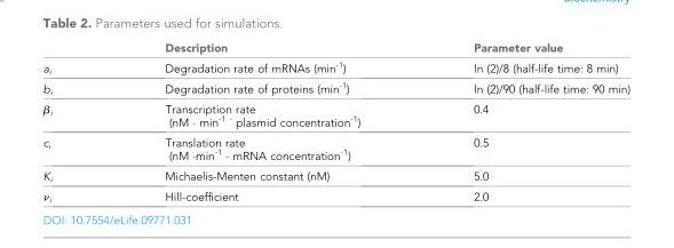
<table><thead><tr><td></td><td>Description</td><td>Parameter value</td></tr></thead><tbody><tr><td>a<sub>i</sub></td><td>Degradation rate of mRNAs (min<sup>-1</sup>)</td><td>ln (2)/8 (half-life time: 8 min)</td></tr><tr><td>b<sub>i</sub></td><td>Degradation rate of proteins (min<sup>-1</sup>)</td><td>ln (2)/90 (half-life time: 90 min)</td></tr><tr><td>β<sub>i</sub></td><td>Transcription rate (nM � min-1 � plasmid concentration-1)</td><td>0.4</td></tr><tr><td>c<sub>i</sub></td><td>Translation rate (nM ·min<sup>-1</sup> · mRNA concentration<sup>-1</sup>)</td><td>0.5</td></tr><tr><td>K<sub>i</sub></td><td>Michaelis-Menten constant (nM)</td><td>5.0</td></tr><tr><td>ν<sub>i</sub></td><td>Hill-coefficient</td><td>2.0</td></tr></tbody></table>